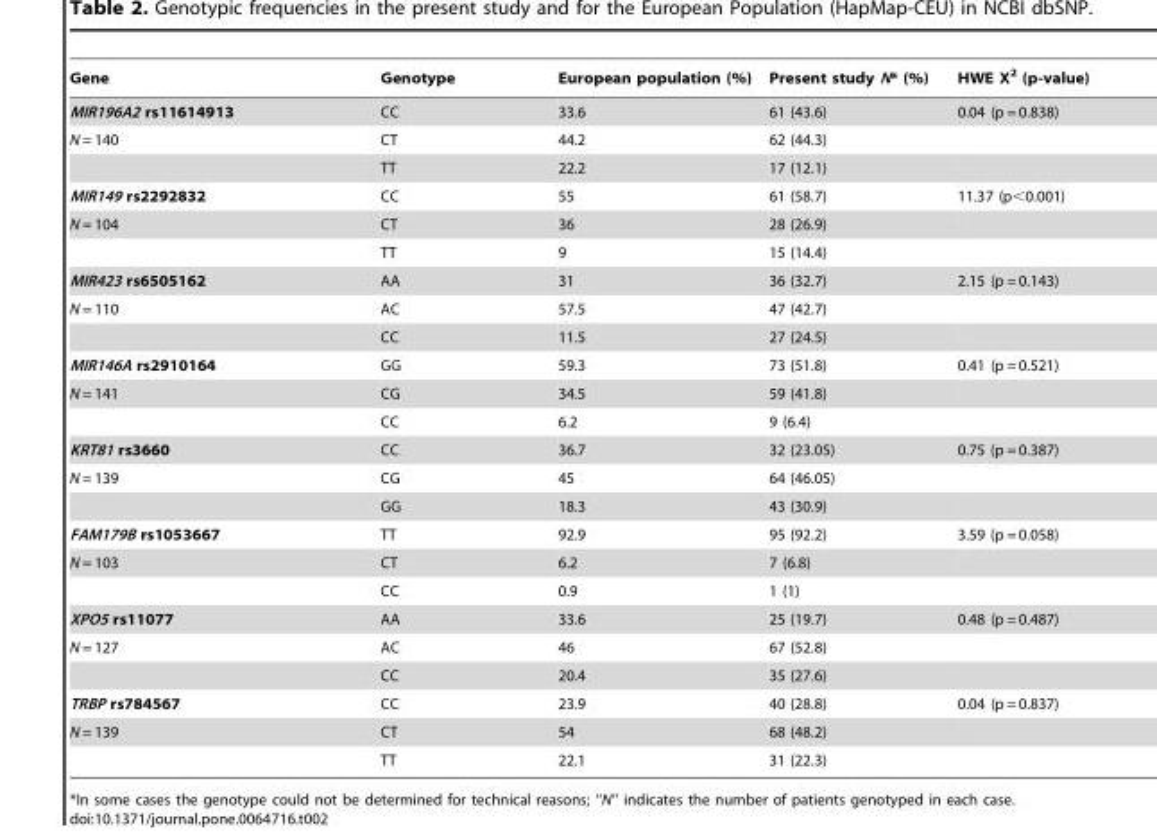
<table><thead><tr><td>Gene</td><td>Genotype</td><td>European population (%)</td><td>Present study N* (%)</td><td>HWE X<sup>2</sup> (p-value)</td></tr></thead><tbody><tr><td>MIR196A2 rs11614913</td><td>CC</td><td>33.6</td><td>61 (43.6)</td><td>0.04 (p = 0.838)</td></tr><tr><td rowspan="2">N = 140</td><td>CT</td><td>44.2</td><td>62 (44.3)</td><td></td></tr><tr><td>TT</td><td>22.2</td><td>17 (12.1)</td><td></td></tr><tr><td>MIR149 rs2292832</td><td>CC</td><td>55</td><td>61 (58.7)</td><td>11.37 (p&lt;0.001)</td></tr><tr><td rowspan="2">N = 104</td><td>CT</td><td>36</td><td>28 (26.9)</td><td></td></tr><tr><td>TT</td><td>9</td><td>15 (14.4)</td><td></td></tr><tr><td>MIR423 rs6505162</td><td>AA</td><td>31</td><td>36 (32.7)</td><td>2.15 (p = 0.143)</td></tr><tr><td rowspan="2">N = 110</td><td>AC</td><td>57.5</td><td>47 (42.7)</td><td></td></tr><tr><td>CC</td><td>11.5</td><td>27 (24.5)</td><td></td></tr><tr><td>MIR146A rs2910164</td><td>GG</td><td>59.3</td><td>73 (51.8)</td><td>0.41 (p = 0.521)</td></tr><tr><td rowspan="2">N = 141</td><td>CG</td><td>34.5</td><td>59 (41.8)</td><td></td></tr><tr><td>CC</td><td>6.2</td><td>9 (6.4)</td><td></td></tr><tr><td>KRT81 rs3660</td><td>CC</td><td>36.7</td><td>32 (23.05)</td><td>0.75 (p = 0.387)</td></tr><tr><td rowspan="2">N = 139</td><td>CG</td><td>45</td><td>64 (46.05)</td><td></td></tr><tr><td>GG</td><td>18.3</td><td>43 (30.9)</td><td></td></tr><tr><td>FAM179B rs1053667</td><td>TT</td><td>92.9</td><td>95 (92.2)</td><td>3.59 (p = 0.058)</td></tr><tr><td rowspan="2">N = 103</td><td>CT</td><td>6.2</td><td>7 (6.8)</td><td></td></tr><tr><td>CC</td><td>0.9</td><td>1 (1)</td><td></td></tr><tr><td>XPO5 rs11077</td><td>AA</td><td>33.6</td><td>25 (19.7)</td><td>0.48 (p = 0.487)</td></tr><tr><td rowspan="2">N = 127</td><td>AC</td><td>46</td><td>67 (52.8)</td><td></td></tr><tr><td>CC</td><td>20.4</td><td>35 (27.6)</td><td></td></tr><tr><td>TRBP rs784567</td><td>CC</td><td>23.9</td><td>40 (28.8)</td><td>0.04 (p = 0.837)</td></tr><tr><td rowspan="2">N = 139</td><td>CT</td><td>54</td><td>68 (48.2)</td><td></td></tr><tr><td>TT</td><td>22.1</td><td>31 (22.3)</td><td></td></tr></tbody></table>